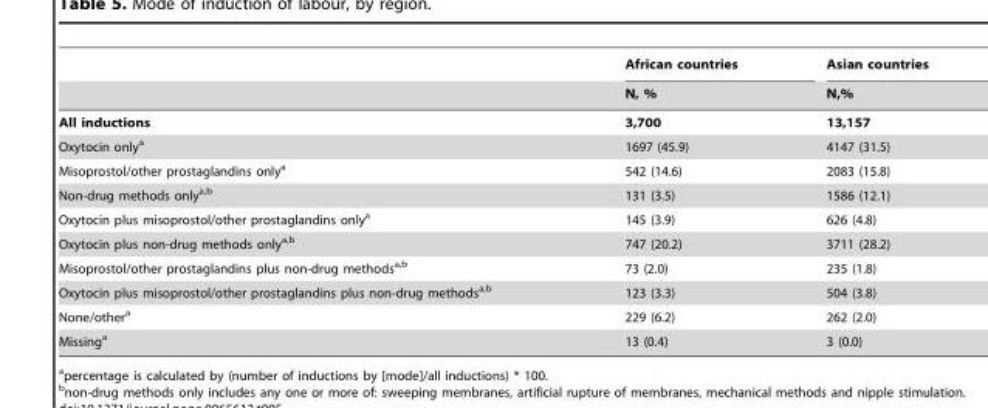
<table><thead><tr><td rowspan="2"></td><td rowspan="2">African countries N, %</td><td rowspan="2">Asian countries N,%</td></tr><tr></tr></thead><tbody><tr><td>All inductions</td><td>3,700</td><td>13,157</td></tr><tr><td>Oxytocin only<sup>a</sup></td><td>1697 (45.9)</td><td>4147 (31.5)</td></tr><tr><td>Misoprostol/other prostaglandins only<sup>a</sup></td><td>542 (14.6)</td><td>2083 (15.8)</td></tr><tr><td>Non-drug methods only<sup>a,</sup>b</td><td>131 (3.5)</td><td>1586 (12.1)</td></tr><tr><td>Oxytocin plus misoprostol/other prostaglandins only<sup>a</sup></td><td>145 (3.9)</td><td>626 (4.8)</td></tr><tr><td>Oxytocin plus non-drug methods only<sup>a,</sup>b</td><td>747 (20.2)</td><td>3711 (28.2)</td></tr><tr><td>Misoprostol/other prostaglandins plus non-drug methods<sup>a,</sup>b</td><td>73 (2.0)</td><td>235 (1.8)</td></tr><tr><td>Oxytocin plus misoprostol/other prostaglandins plus non-drug methods<sup>a,</sup>b</td><td>123 (3.3)</td><td>504 (3.8)</td></tr><tr><td>None/other<sup>a</sup></td><td>229 (6.2)</td><td>262 (2.0)</td></tr><tr><td>Missing<sup>a</sup></td><td>13 (0.4)</td><td>3 (0.0)</td></tr></tbody></table>